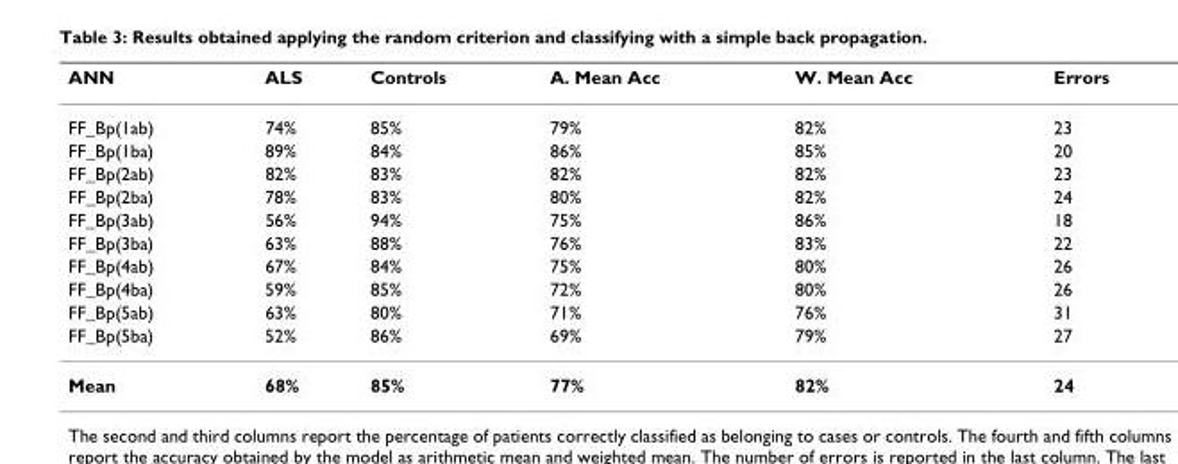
<table><thead><tr><td>ANN</td><td>ALS</td><td>Controls</td><td>A. Mean Acc</td><td>W. Mean Acc</td><td>Errors</td></tr></thead><tbody><tr><td>FF_Bp(1ab)</td><td>74%</td><td>85%</td><td>79%</td><td>82%</td><td>23</td></tr><tr><td>FF_Bp(1ba)</td><td>89%</td><td>84%</td><td>86%</td><td>85%</td><td>20</td></tr><tr><td>FF_Bp(2ab)</td><td>82%</td><td>83%</td><td>82%</td><td>82%</td><td>23</td></tr><tr><td>FF_Bp(2ba)</td><td>78%</td><td>83%</td><td>80%</td><td>82%</td><td>24</td></tr><tr><td>FF_Bp(3ab)</td><td>56%</td><td>94%</td><td>75%</td><td>86%</td><td>18</td></tr><tr><td>FF_Bp(3ba)</td><td>63%</td><td>88%</td><td>76%</td><td>83%</td><td>22</td></tr><tr><td>FF_Bp(4ab)</td><td>67%</td><td>84%</td><td>75%</td><td>80%</td><td>26</td></tr><tr><td>FF_Bp(4ba)</td><td>59%</td><td>85%</td><td>72%</td><td>80%</td><td>26</td></tr><tr><td>FF_Bp(5ab)</td><td>63%</td><td>80%</td><td>71%</td><td>76%</td><td>31</td></tr><tr><td>FF_Bp(5ba)</td><td>52%</td><td>86%</td><td>69%</td><td>79%</td><td>27</td></tr><tr><td>Mean</td><td>68%</td><td>85%</td><td>77%</td><td>82%</td><td>24</td></tr></tbody></table>